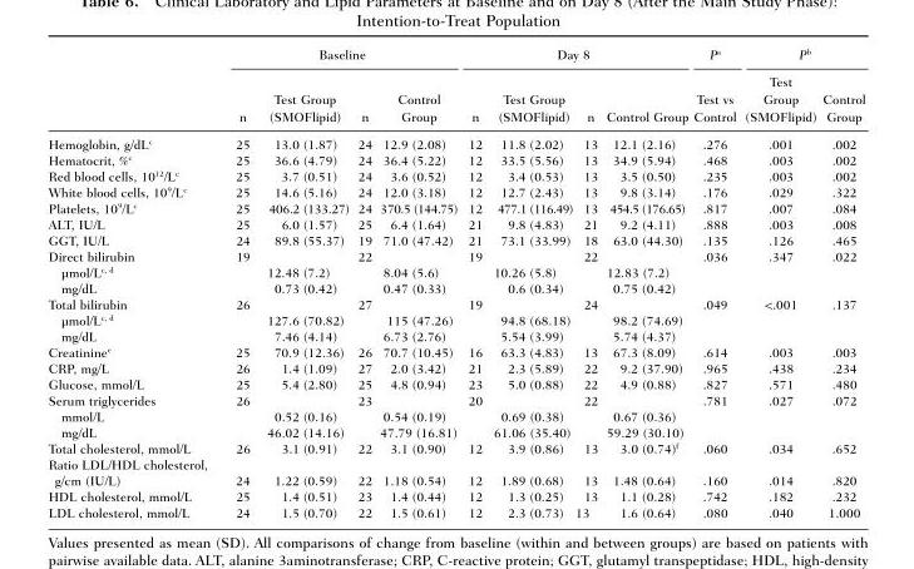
<table><thead><tr><td rowspan="2"></td><td colspan="4">Baseline</td><td colspan="4">Day 8</td><td rowspan="2">P<sup>a</sup> Test vs Control</td><td colspan="2">P<sup>b</sup></td></tr><tr><td>n</td><td>Test Group (SMOFlipid)</td><td>n</td><td>Control Group</td><td>n</td><td>Test Group (SMOFlipid)</td><td>n</td><td>Control Group</td><td>Test Group (SMOFlipid)</td><td>Control Group</td></tr></thead><tbody><tr><td>Hemoglobin, g/dL<sup>c</sup></td><td>25</td><td>13.0 (1.87)</td><td>24</td><td>12.9 (2.08)</td><td>12</td><td>11.8 (2.02)</td><td>13</td><td>12.1 (2.16)</td><td>.276</td><td>.001</td><td>.002</td></tr><tr><td>Hematocrit, %<sup>c</sup></td><td>25</td><td>36.6 (4.79)</td><td>24</td><td>36.4 (5.22)</td><td>12</td><td>33.5 (5.56)</td><td>13</td><td>34.9 (5.94)</td><td>.468</td><td>.003</td><td>.002</td></tr><tr><td>Red blood cells, 10<sup>12</sup>/L<sup>c</sup></td><td>25</td><td>3.7 (0.51)</td><td>24</td><td>3.6 (0.52)</td><td>12</td><td>3.4 (0.53)</td><td>13</td><td>3.5 (0.50)</td><td>.235</td><td>.003</td><td>.002</td></tr><tr><td>White blood cells, 10<sup>9</sup>/L<sup>c</sup></td><td>25</td><td>14.6 (5.16)</td><td>24</td><td>12.0 (3.18)</td><td>12</td><td>12.7 (2.43)</td><td>13</td><td>9.8 (3.14)</td><td>.176</td><td>.029</td><td>.322</td></tr><tr><td>Platelets, 10<sup>9</sup>/L<sup>c</sup></td><td>25</td><td>406.2 (133.27)</td><td>24</td><td>370.5 (144.75)</td><td>12</td><td>477.1 (116.49)</td><td>13</td><td>454.5 (176.65)</td><td>.817</td><td>.007</td><td>.084</td></tr><tr><td>ALT, IU/L</td><td>25</td><td>6.0 (1.57)</td><td>25</td><td>6.4 (1.64)</td><td>21</td><td>9.8 (4.83)</td><td>21</td><td>9.2 (4.11)</td><td>.888</td><td>.003</td><td>.008</td></tr><tr><td>GGT, IU/L</td><td>24</td><td>89.8 (55.37)</td><td>19</td><td>71.0 (47.42)</td><td>21</td><td>73.1 (33.99)</td><td>18</td><td>63.0 (44.30)</td><td>.135</td><td>.126</td><td>.465</td></tr><tr><td>Direct bilirubin</td><td>19</td><td></td><td>22</td><td></td><td>19</td><td></td><td>22</td><td></td><td>.036</td><td>.347</td><td>.022</td></tr><tr><td>µmol/L<sup>c, d</sup></td><td></td><td>12.48 (7.2)</td><td></td><td>8.04 (5.6)</td><td></td><td>10.26 (5.8)</td><td></td><td>12.83 (7.2)</td><td></td><td></td><td></td></tr><tr><td>mg/dL</td><td></td><td>0.73 (0.42)</td><td></td><td>0.47 (0.33)</td><td></td><td>0.6 (0.34)</td><td></td><td>0.75 (0.42)</td><td></td><td></td><td></td></tr><tr><td>Total bilirubin</td><td>26</td><td></td><td>27</td><td></td><td>19</td><td></td><td>24</td><td></td><td>.049</td><td>&lt;.001</td><td>.137</td></tr><tr><td>µmol/L<sup>c, d</sup></td><td></td><td>127.6 (70.82)</td><td></td><td>115 (47.26)</td><td></td><td>94.8 (68.18)</td><td></td><td>98.2 (74.69)</td><td></td><td></td><td></td></tr><tr><td>mg/dL</td><td></td><td>7.46 (4.14)</td><td></td><td>6.73 (2.76)</td><td></td><td>5.54 (3.99)</td><td></td><td>5.74 (4.37)</td><td></td><td></td><td></td></tr><tr><td>Creatinine<sup>e</sup></td><td>25</td><td>70.9 (12.36)</td><td>26</td><td>70.7 (10.45)</td><td>16</td><td>63.3 (4.83)</td><td>13</td><td>67.3 (8.09)</td><td>.614</td><td>.003</td><td>.003</td></tr><tr><td>CRP, mg/L</td><td>26</td><td>1.4 (1.09)</td><td>27</td><td>2.0 (3.42)</td><td>21</td><td>2.3 (5.89)</td><td>22</td><td>9.2 (37.90)</td><td>.965</td><td>.438</td><td>.234</td></tr><tr><td>Glucose, mmol/L</td><td>25</td><td>5.4 (2.80)</td><td>25</td><td>4.8 (0.94)</td><td>23</td><td>5.0 (0.88)</td><td>22</td><td>4.9 (0.88)</td><td>.827</td><td>.571</td><td>.480</td></tr><tr><td>Serum triglycerides</td><td>26</td><td></td><td>23</td><td></td><td>20</td><td></td><td>22</td><td></td><td>.781</td><td>.027</td><td>.072</td></tr><tr><td>mmol/L</td><td></td><td>0.52 (0.16)</td><td></td><td>0.54 (0.19)</td><td></td><td>0.69 (0.38)</td><td></td><td>0.67 (0.36)</td><td></td><td></td><td></td></tr><tr><td>mg/dL</td><td></td><td>46.02 (14.16)</td><td></td><td>47.79 (16.81)</td><td></td><td>61.06 (35.40)</td><td></td><td>59.29 (30.10)</td><td></td><td></td><td></td></tr><tr><td>Total cholesterol, mmol/L</td><td>26</td><td>3.1 (0.91)</td><td>22</td><td>3.1 (0.90)</td><td>12</td><td>3.9 (0.86)</td><td>13</td><td>3.0 (0.74)<sup>f</sup></td><td>.060</td><td>.034</td><td>.652</td></tr><tr><td>Ratio LDL/HDL cholesterol, g/cm (IU/L)</td><td>24</td><td>1.22 (0.59)</td><td>22</td><td>1.18 (0.54)</td><td>12</td><td>1.89 (0.68)</td><td>13</td><td>1.48 (0.64)</td><td>.160</td><td>.014</td><td>.820</td></tr><tr><td>HDL cholesterol, mmol/L</td><td>25</td><td>1.4 (0.51)</td><td>23</td><td>1.4 (0.44)</td><td>12</td><td>1.3 (0.25)</td><td>13</td><td>1.1 (0.28)</td><td>.742</td><td>.182</td><td>.232</td></tr><tr><td>LDL cholesterol, mmol/L</td><td>24</td><td>1.5 (0.70)</td><td>22</td><td>1.5 (0.61)</td><td>12</td><td>2.3 (0.73)</td><td>13</td><td>1.6 (0.64)</td><td>.080</td><td>.040</td><td>1.000</td></tr></tbody></table>